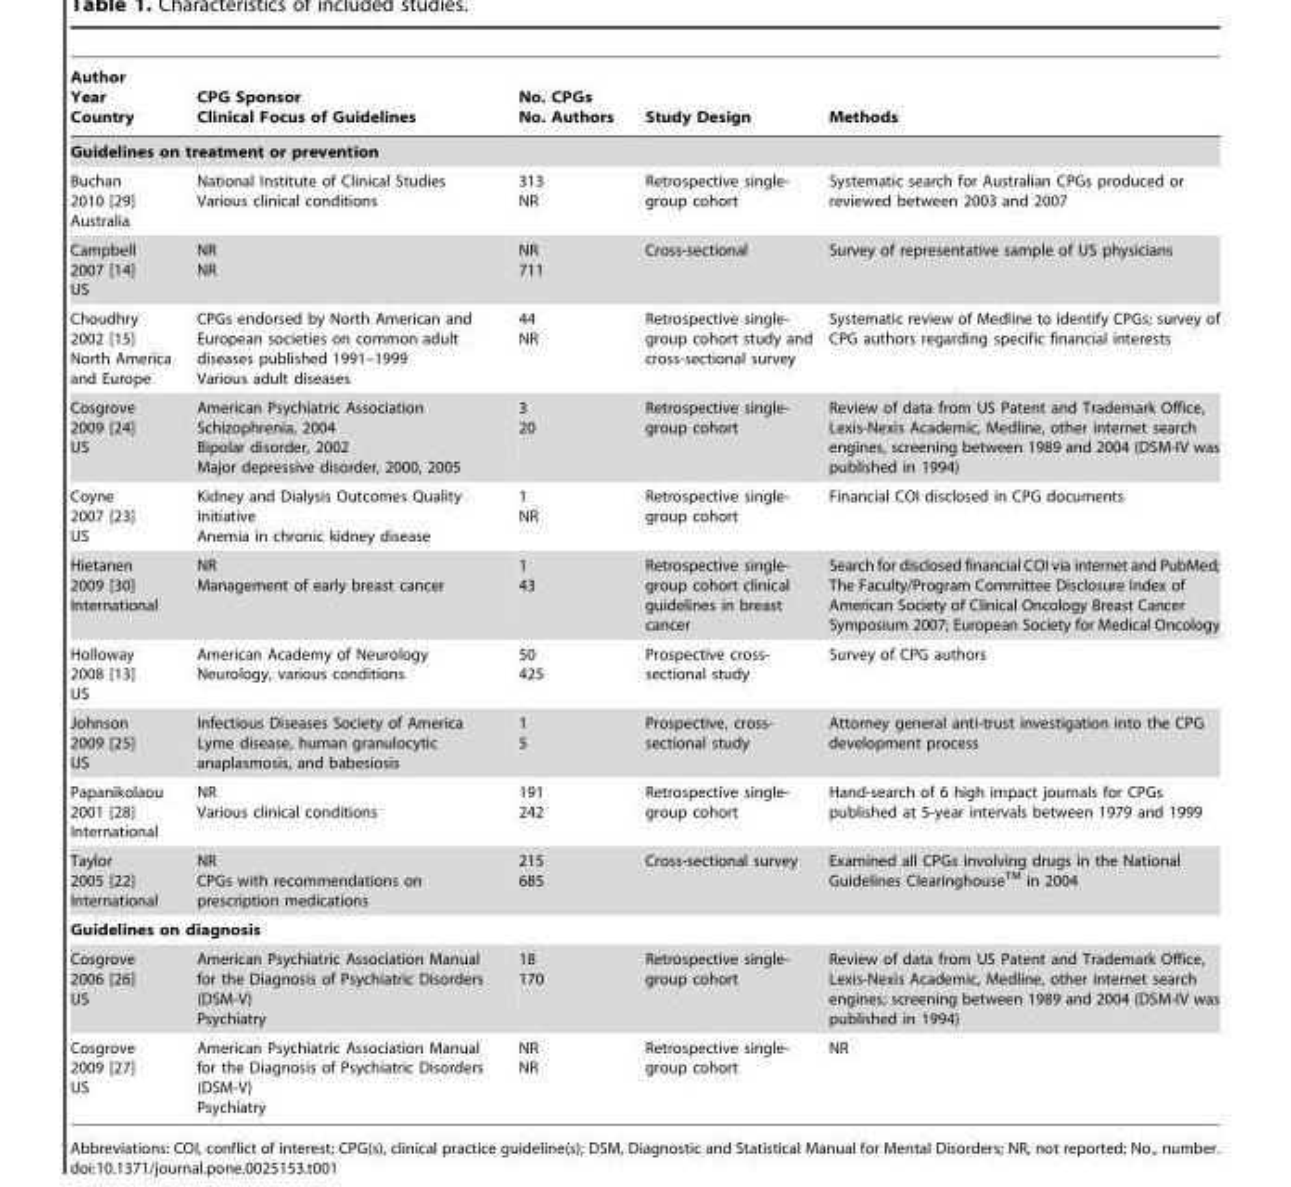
<table><thead><tr><td>Author Year Country</td><td>CPG Sponsor Clinical Focus of Guidelines</td><td>No. CPGs No. Authors</td><td>Study Design</td><td>Methods</td></tr></thead><tbody><tr><td colspan="5">Guidelines on treatment or prevention</td></tr><tr><td>Buchan 2010 [29] Australia</td><td>National Institute of Clinical Studies Various clinical conditions</td><td>313 NR</td><td>Retrospective single- group cohort</td><td>Systematic search for Australian CPGs produced or reviewed between 2003 and 2007</td></tr><tr><td>Campbell 2007 [14] US</td><td>NR NR</td><td>NR 711</td><td>Cross-sectional</td><td>Survey of representative sample of US physicians</td></tr><tr><td>Choudhry 2002 [15] North America and Europe</td><td>CPGs endorsed by North American and European societies on common adult diseases published 1991–1999 Various adult diseases</td><td>44 NR</td><td>Retrospective single- group cohort study and cross-sectional survey</td><td>Systematic review of Medline to identify CPGs; survey of CPG authors regarding specific financial interests</td></tr><tr><td>Cosgrove 2009 [24] US</td><td>American Psychiatric Association Schizophrenia, 2004 Bipolar disorder, 2002 Major depressive disorder, 2000, 2005</td><td>3 20</td><td>Retrospective single- group cohort</td><td>Review of data from US Patent and Trademark Office, Lexis-Nexis Academic, Medline, other internet search engines, screening between 1989 and 2004 (DSM-IV was published in 1994)</td></tr><tr><td>Coyne 2007 [23] US</td><td>Kidney and Dialysis Outcomes Quality Initiative Anemia in chronic kidney disease</td><td>1 NR</td><td>Retrospective single- group cohort</td><td>Financial COI disclosed in CPG documents</td></tr><tr><td>Hietanen 2009 [30] International</td><td>NR Management of early breast cancer</td><td>1 43</td><td>Retrospective single- group cohort clinical guidelines in breast cancer</td><td>Search for disclosed financial COI via internet and PubMed; The Faculty/Program Committee Disclosure Index of American Society of Clinical Oncology Breast Cancer Symposium 2007; European Society for Medical Oncology</td></tr><tr><td>Holloway 2008 [13] US</td><td>American Academy of Neurology Neurology, various conditions</td><td>50 425</td><td>Prospective cross- sectional study</td><td>Survey of CPG authors</td></tr><tr><td>Johnson 2009 [25] US</td><td>Infectious Diseases Society of America Lyme disease, human granulocytic anaplasmosis, and babesiosis</td><td>1 5</td><td>Prospective, cross- sectional study</td><td>Attorney general anti-trust investigation into the CPG development process</td></tr><tr><td>Papanikolaou 2001 [28] International</td><td>NR Various clinical conditions</td><td>191 242</td><td>Retrospective single- group cohort</td><td>Hand-search of 6 high impact journals for CPGs published at 5-year intervals between 1979 and 1999</td></tr><tr><td>Taylor 2005 [22] International</td><td>NR CPGs with recommendations on prescription medications</td><td>215 685</td><td>Cross-sectional survey</td><td>Examined all CPGs involving drugs in the National Guidelines ClearinghouseTM in 2004</td></tr><tr><td colspan="5">Guidelines on diagnosis</td></tr><tr><td>Cosgrove 2006 [26] US</td><td>American Psychiatric Association Manual for the Diagnosis of Psychiatric Disorders (DSM-V) Psychiatry</td><td>18 170</td><td>Retrospective single- group cohort</td><td>Review of data from US Patent and Trademark Office, Lexis-Nexis Academic, Medline, other internet search engines; screening between 1989 and 2004 (DSM-IV was published in 1994)</td></tr><tr><td>Cosgrove 2009 [27] US</td><td>American Psychiatric Association Manual for the Diagnosis of Psychiatric Disorders (DSM-V) Psychiatry</td><td>NR NR</td><td>Retrospective single- group cohort</td><td>NR</td></tr></tbody></table>